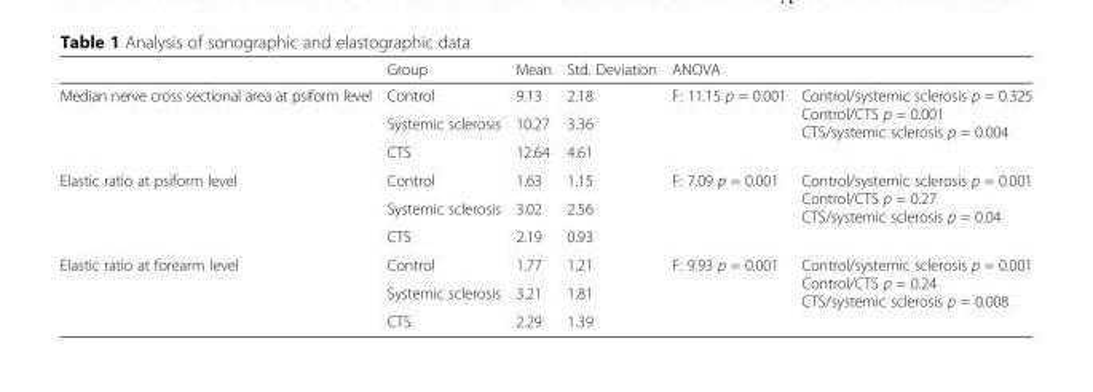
<table><thead><tr><td></td><td>Group</td><td>Mean</td><td>Std. Deviation</td><td>ANOVA</td><td></td></tr></thead><tbody><tr><td rowspan="3">Median nerve cross sectional area at psiform level</td><td>Control</td><td>9.13</td><td>2.18</td><td rowspan="3">F: 11.15 p = 0.001</td><td rowspan="3">Control/systemic sclerosis p = 0.325 Control/CTS p = 0.001 CTS/systemic sclerosis p = 0.004</td></tr><tr><td>Systemic sclerosis</td><td>10.27</td><td>3.36</td></tr><tr><td>CTS</td><td>12.64</td><td>4.61</td></tr><tr><td rowspan="3">Elastic ratio at psiform level</td><td>Control</td><td>1.63</td><td>1.15</td><td rowspan="3">F: 7.09 p = 0.001</td><td rowspan="3">Control/systemic sclerosis p = 0.001 Control/CTS p = 0.27 CTS/systemic sclerosis p = 0.04</td></tr><tr><td>Systemic sclerosis</td><td>3.02</td><td>2.56</td></tr><tr><td>CTS</td><td>2.19</td><td>0.93</td></tr><tr><td rowspan="3">Elastic ratio at forearm level</td><td>Control</td><td>1.77</td><td>1.21</td><td rowspan="3">F: 9.93 p = 0.001</td><td rowspan="3">Control/systemic sclerosis p = 0.001 Control/CTS p = 0.24 CTS/systemic sclerosis p = 0.008</td></tr><tr><td>Systemic sclerosis</td><td>3.21</td><td>1.81</td></tr><tr><td>CTS</td><td>2.29</td><td>1.39</td></tr></tbody></table>